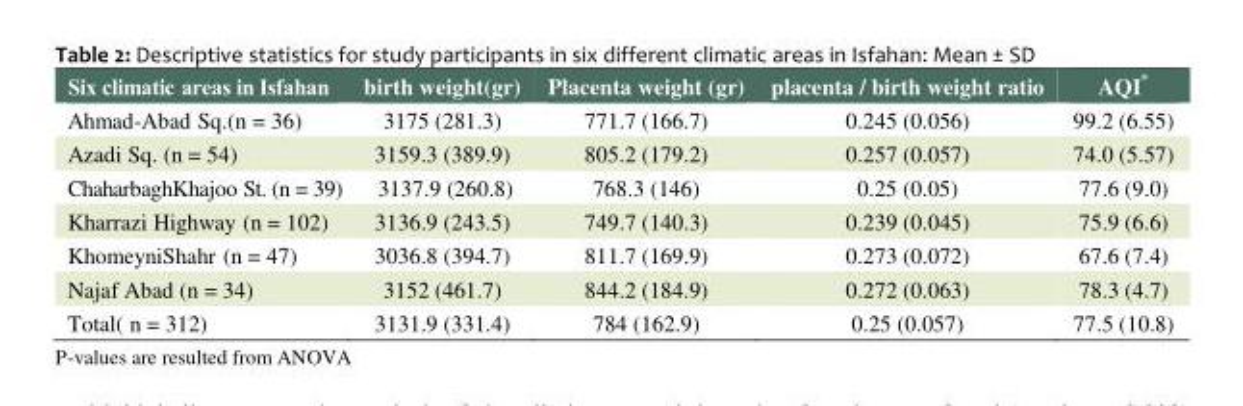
<table><thead><tr><td>Six climatic areas in Isfahan</td><td>birth weight(gr)</td><td>Placenta weight (gr)</td><td>placenta / birth weight ratio</td><td>AQI*</td></tr></thead><tbody><tr><td>Ahmad-Abad Sq.(n = 36)</td><td>3175 (281.3)</td><td>771.7 (166.7)</td><td>0.245 (0.056)</td><td>99.2 (6.55)</td></tr><tr><td>Azadi Sq. (n = 54)</td><td>3159.3 (389.9)</td><td>805.2 (179.2)</td><td>0.257 (0.057)</td><td>74.0 (5.57)</td></tr><tr><td>ChaharbaghKhajoo St. (n = 39)</td><td>3137.9 (260.8)</td><td>768.3 (146)</td><td>0.25 (0.05)</td><td>77.6 (9.0)</td></tr><tr><td>Kharrazi Highway (n = 102)</td><td>3136.9 (243.5)</td><td>749.7 (140.3)</td><td>0.239 (0.045)</td><td>75.9 (6.6)</td></tr><tr><td>KhomeyniShahr (n = 47)</td><td>3036.8 (394.7)</td><td>811.7 (169.9)</td><td>0.273 (0.072)</td><td>67.6 (7.4)</td></tr><tr><td>Najaf Abad (n = 34)</td><td>3152 (461.7)</td><td>844.2 (184.9)</td><td>0.272 (0.063)</td><td>78.3 (4.7)</td></tr><tr><td>Total( n = 312)</td><td>3131.9 (331.4)</td><td>784 (162.9)</td><td>0.25 (0.057)</td><td>77.5 (10.8)</td></tr></tbody></table>